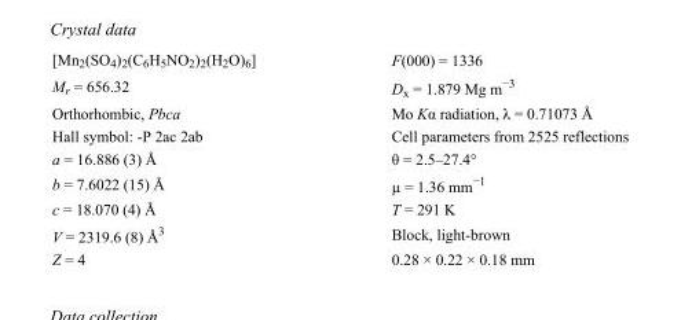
<table><tbody><tr><td>[Mn<sub>2</sub>(SO<sub>4</sub>)<sub>2</sub>(C<sub>6</sub>H<sub>5</sub>NO<sub>2</sub>)<sub>2</sub>(H<sub>2</sub>O)<sub>6</sub>]</td><td>F(000) = 1336</td></tr><tr><td>M<sub>r</sub> = 656.32</td><td>D<sub>x</sub> = 1.879 Mg m<sup>−3</sup></td></tr><tr><td>Orthorhombic, Pbca</td><td>Mo Kα radiation, λ = 0.71073 Å</td></tr><tr><td>Hall symbol: -P 2ac 2ab</td><td>Cell parameters from 2525 reflections</td></tr><tr><td>a = 16.886 (3) Å</td><td>θ = 2.5–27.4°</td></tr><tr><td>b = 7.6022 (15) Å</td><td>µ = 1.36 mm<sup>−1</sup></td></tr><tr><td>c = 18.070 (4) Å</td><td>T = 291 K</td></tr><tr><td>V = 2319.6 (8) Å<sup>3</sup></td><td>Block, light-brown</td></tr><tr><td>Z = 4</td><td>0.28 × 0.22 × 0.18 mm</td></tr></tbody></table>